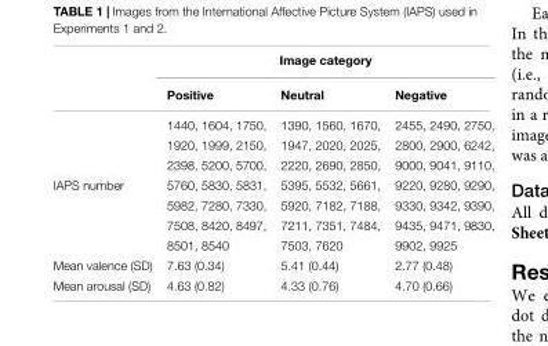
<table><thead><tr><td rowspan="2"></td><td colspan="3">Image category</td></tr><tr><td>Positive</td><td>Neutral</td><td>Negative</td></tr></thead><tbody><tr><td></td><td>1440, 1604, 1750,</td><td>1390, 1560, 1670,</td><td>2455, 2490, 2750,</td></tr><tr><td></td><td>1920, 1999, 2150,</td><td>1947, 2020, 2025,</td><td>2800, 2900, 6242,</td></tr><tr><td></td><td>2398, 5200, 5700,</td><td>2220, 2690, 2850,</td><td>9000, 9041, 9110,</td></tr><tr><td rowspan="4">IAPS number</td><td>5760, 5830, 5831,</td><td>5395, 5532, 5661,</td><td>9220, 9280, 9290,</td></tr><tr><td>5982, 7280, 7330,</td><td>5920, 7182, 7188,</td><td>9330, 9342, 9390,</td></tr><tr><td>7508, 8420, 8497,</td><td>7211, 7351, 7484,</td><td>9435, 9471, 9830,</td></tr><tr><td>8501, 8540</td><td>7503, 7620</td><td>9902, 9925</td></tr><tr><td>Mean valence (SD)</td><td>7.63 (0.34)</td><td>5.41 (0.44)</td><td>2.77 (0.48)</td></tr><tr><td>Mean arousal (SD)</td><td>4.63 (0.82)</td><td>4.33 (0.76)</td><td>4.70 (0.66)</td></tr></tbody></table>